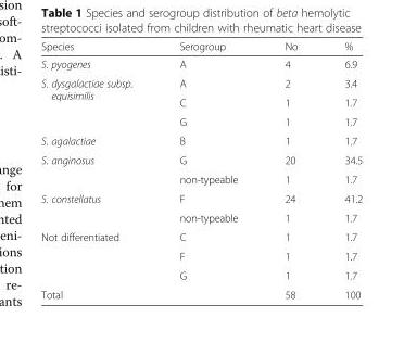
<table><thead><tr><td>Species</td><td>Serogroup</td><td>No</td><td>%</td></tr></thead><tbody><tr><td>S. pyogenes</td><td>A</td><td>4</td><td>6.9</td></tr><tr><td rowspan="3">S. dysgalactiae subsp. equisimilis</td><td>A</td><td>2</td><td>3.4</td></tr><tr><td>C</td><td>1</td><td>1.7</td></tr><tr><td>G</td><td>1</td><td>1.7</td></tr><tr><td>S. agalactiae</td><td>B</td><td>1</td><td>1.7</td></tr><tr><td rowspan="2">S. anginosus</td><td>G</td><td>20</td><td>34.5</td></tr><tr><td>non-typeable</td><td>1</td><td>1.7</td></tr><tr><td rowspan="2">S. constellatus</td><td>F</td><td>24</td><td>41.2</td></tr><tr><td>non-typeable</td><td>1</td><td>1.7</td></tr><tr><td rowspan="3">Not differentiated</td><td>C</td><td>1</td><td>1.7</td></tr><tr><td>F</td><td>1</td><td>1.7</td></tr><tr><td>G</td><td>1</td><td>1.7</td></tr><tr><td colspan="2">Total</td><td>58</td><td>100</td></tr></tbody></table>